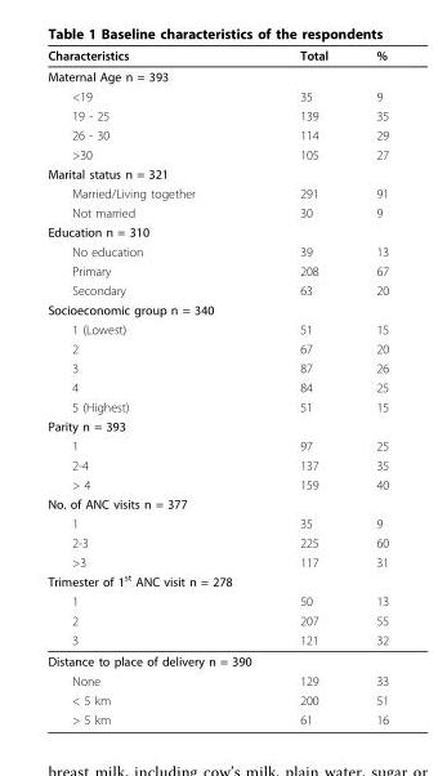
<table><thead><tr><td>Characteristics</td><td>Total</td><td>%</td></tr></thead><tbody><tr><td colspan="3">Maternal Age n = 393</td></tr><tr><td>&lt;19</td><td>35</td><td>9</td></tr><tr><td>19 - 25</td><td>139</td><td>35</td></tr><tr><td>26 - 30</td><td>114</td><td>29</td></tr><tr><td>&gt;30</td><td>105</td><td>27</td></tr><tr><td colspan="3">Marital status n = 321</td></tr><tr><td>Married/Living together</td><td>291</td><td>91</td></tr><tr><td>Not married</td><td>30</td><td>9</td></tr><tr><td colspan="3">Education n = 310</td></tr><tr><td>No education</td><td>39</td><td>13</td></tr><tr><td>Primary</td><td>208</td><td>67</td></tr><tr><td>Secondary</td><td>63</td><td>20</td></tr><tr><td colspan="3">Socioeconomic group n = 340</td></tr><tr><td>1 (Lowest)</td><td>51</td><td>15</td></tr><tr><td>2</td><td>67</td><td>20</td></tr><tr><td>3</td><td>87</td><td>26</td></tr><tr><td>4</td><td>84</td><td>25</td></tr><tr><td>5 (Highest)</td><td>51</td><td>15</td></tr><tr><td colspan="3">Parity n = 393</td></tr><tr><td>1</td><td>97</td><td>25</td></tr><tr><td>2-4</td><td>137</td><td>35</td></tr><tr><td>&gt; 4</td><td>159</td><td>40</td></tr><tr><td colspan="3">No. of ANC visits n = 377</td></tr><tr><td>1</td><td>35</td><td>9</td></tr><tr><td>2-3</td><td>225</td><td>60</td></tr><tr><td>&gt;3</td><td>117</td><td>31</td></tr><tr><td colspan="3">Trimester of 1<sup>st</sup> ANC visit n = 278</td></tr><tr><td>1</td><td>50</td><td>13</td></tr><tr><td>2</td><td>207</td><td>55</td></tr><tr><td>3</td><td>121</td><td>32</td></tr><tr><td colspan="3">Distance to place of delivery n = 390</td></tr><tr><td>None</td><td>129</td><td>33</td></tr><tr><td>&lt; 5 km</td><td>200</td><td>51</td></tr><tr><td>&gt; 5 km</td><td>61</td><td>16</td></tr></tbody></table>